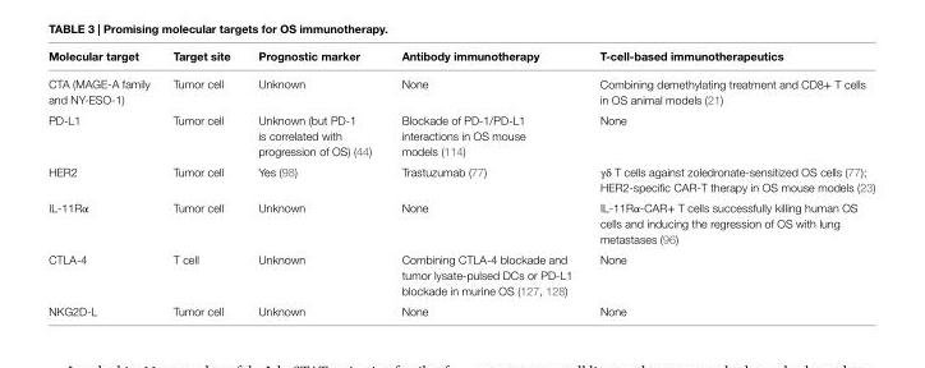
<table><thead><tr><td>Molecular target</td><td>Target site</td><td>Prognostic marker</td><td>Antibody immunotherapy</td><td>T-cell-based immunotherapeutics</td></tr></thead><tbody><tr><td>CTA (MAGE-A family and NY-ESO-1)</td><td>Tumor cell</td><td>Unknown</td><td>None</td><td>Combining demethylating treatment and CD8+ T cells in OS animal models (21)</td></tr><tr><td>PD-L1</td><td>Tumor cell</td><td>Unknown (but PD-1 is correlated with progression of OS) (44)</td><td>Blockade of PD-1/PD-L1 interactions in OS mouse models (114)</td><td>None</td></tr><tr><td>HER2</td><td>Tumor cell</td><td>Yes (98)</td><td>Trastuzumab (77)</td><td>γδ T cells against zoledronate-sensitized OS cells (77); HER2-specific CAR-T therapy in OS mouse models (23)</td></tr><tr><td>IL-11Rα</td><td>Tumor cell</td><td>Unknown</td><td>None</td><td>IL-11Rα-CAR+ T cells successfully killing human OS cells and inducing the regression of OS with lung metastases (96)</td></tr><tr><td>CTLA-4</td><td>T cell</td><td>Unknown</td><td>Combining CTLA-4 blockade and tumor lysate-pulsed DCs or PD-L1 blockade in murine OS (127, 128)</td><td>None</td></tr><tr><td>NKG2D-L</td><td>Tumor cell</td><td>Unknown</td><td>None</td><td>None</td></tr></tbody></table>